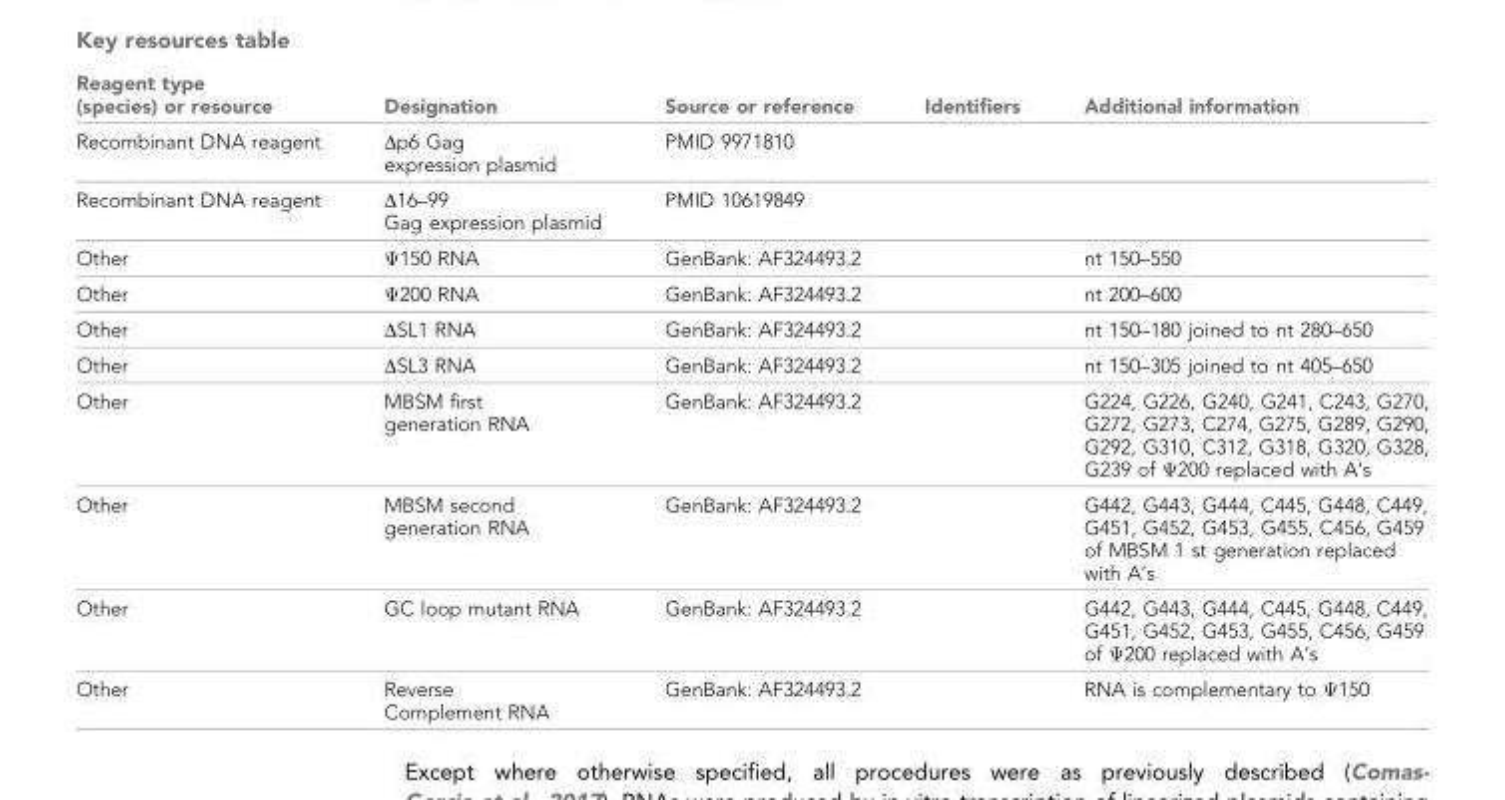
<table><thead><tr><td>Reagent type (species) or resource</td><td>Designation</td><td>Source or reference</td><td>Identifiers</td><td>Additional information</td></tr></thead><tbody><tr><td>Recombinant DNA reagent</td><td>Δp6 Gag expression plasmid</td><td>PMID 9971810</td><td></td><td></td></tr><tr><td>Recombinant DNA reagent</td><td>Δ16–99 Gag expression plasmid</td><td>PMID 10619849</td><td></td><td></td></tr><tr><td>Other</td><td>Ψ150 RNA</td><td>GenBank: AF324493.2</td><td></td><td>nt 150–550</td></tr><tr><td>Other</td><td>Ψ200 RNA</td><td>GenBank: AF324493.2</td><td></td><td>nt 200–600</td></tr><tr><td>Other</td><td>ΔSL1 RNA</td><td>GenBank: AF324493.2</td><td></td><td>nt 150–180 joined to nt 280–650</td></tr><tr><td>Other</td><td>ΔSL3 RNA</td><td>GenBank: AF324493.2</td><td></td><td>nt 150–305 joined to nt 405–650</td></tr><tr><td>Other</td><td>MBSM first generation RNA</td><td>GenBank: AF324493.2</td><td></td><td>G224, G226, G240, G241, C243, G270, G272, G273, C274, G275, G289, G290, G292, G310, C312, G318, G320, G328, G239 of Ψ200 replaced with A’s</td></tr><tr><td>Other</td><td>MBSM second generation RNA</td><td>GenBank: AF324493.2</td><td></td><td>G442, G443, G444, C445, G448, C449, G451, G452, G453, G455, C456, G459 of MBSM 1 st generation replaced with A’s</td></tr><tr><td>Other</td><td>GC loop mutant RNA</td><td>GenBank: AF324493.2</td><td></td><td>G442, G443, G444, C445, G448, C449, G451, G452, G453, G455, C456, G459 of Ψ200 replaced with A’s</td></tr><tr><td>Other</td><td>Reverse Complement RNA</td><td>GenBank: AF324493.2</td><td></td><td>RNA is complementary to Ψ150</td></tr></tbody></table>